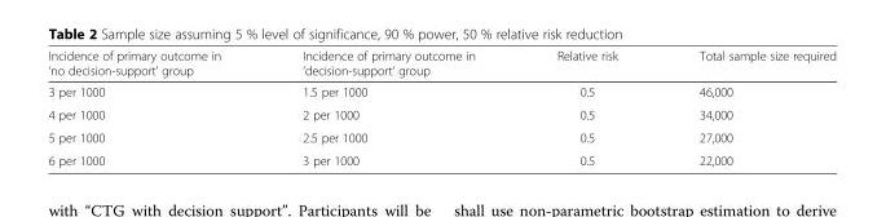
<table><thead><tr><td>Incidence of primary outcome in ‘no decision-support’ group</td><td>Incidence of primary outcome in ‘decision-support’ group</td><td>Relative risk</td><td>Total sample size required</td></tr></thead><tbody><tr><td>3 per 1000</td><td>1.5 per 1000</td><td>0.5</td><td>46,000</td></tr><tr><td>4 per 1000</td><td>2 per 1000</td><td>0.5</td><td>34,000</td></tr><tr><td>5 per 1000</td><td>2.5 per 1000</td><td>0.5</td><td>27,000</td></tr><tr><td>6 per 1000</td><td>3 per 1000</td><td>0.5</td><td>22,000</td></tr></tbody></table>